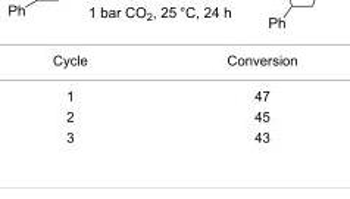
<table><tbody><tr><td>Cycle</td><td>Conversion</td></tr><tr><td>1</td><td>47</td></tr><tr><td>2</td><td>45</td></tr><tr><td>3</td><td>43</td></tr></tbody></table>